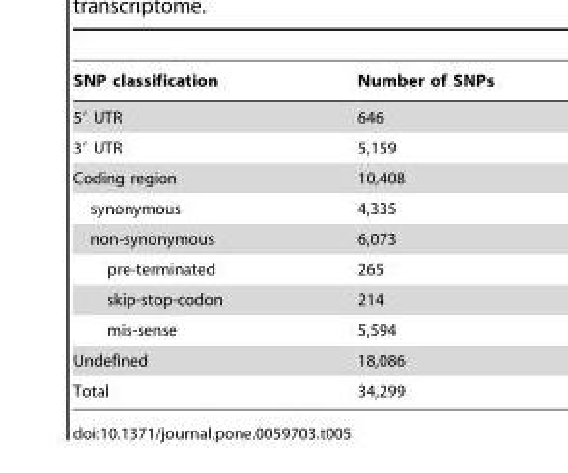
<table><thead><tr><td>SNP classification</td><td>Number of SNPs</td></tr></thead><tbody><tr><td>5′ UTR</td><td>646</td></tr><tr><td>3′ UTR</td><td>5,159</td></tr><tr><td>Coding region</td><td>10,408</td></tr><tr><td>synonymous</td><td>4,335</td></tr><tr><td>non-synonymous</td><td>6,073</td></tr><tr><td>pre-terminated</td><td>265</td></tr><tr><td>skip-stop-codon</td><td>214</td></tr><tr><td>mis-sense</td><td>5,594</td></tr><tr><td>Undefined</td><td>18,086</td></tr><tr><td>Total</td><td>34,299</td></tr></tbody></table>